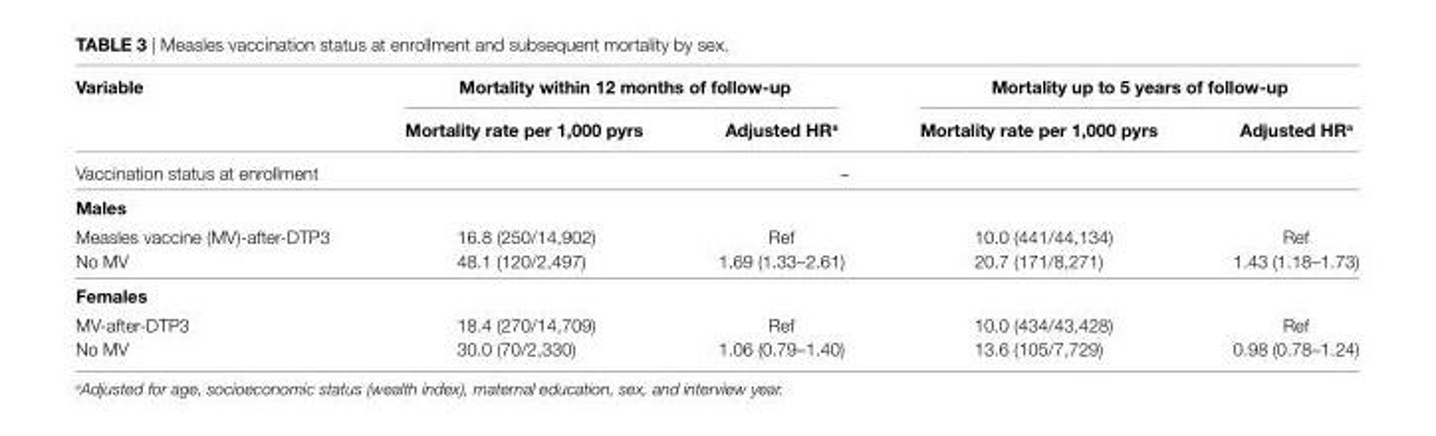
<table><thead><tr><td rowspan="2">Variable</td><td colspan="2">Mortality within 12 months of follow-up</td><td colspan="2">Mortality up to 5 years of follow-up</td></tr><tr><td>Mortality rate per 1,000 pyrs</td><td>adjusted hr<sup>a</sup></td><td>Mortality rate per 1,000 pyrs</td><td>adjusted hr<sup>a</sup></td></tr></thead><tbody><tr><td>Vaccination status at enrollment</td><td colspan="4">–</td></tr><tr><td colspan="5">Males</td></tr><tr><td>Measles vaccine (MV)-after-DTP3</td><td>16.8 (250/14,902)</td><td>Ref</td><td>10.0 (441/44,134)</td><td>Ref</td></tr><tr><td>No MV</td><td>48.1 (120/2,497)</td><td>1.69 (1.33–2.61)</td><td>20.7 (171/8,271)</td><td>1.43 (1.18–1.73)</td></tr><tr><td colspan="5">Females</td></tr><tr><td>MV-after-DTP3</td><td>18.4 (270/14,709)</td><td>Ref</td><td>10.0 (434/43,428)</td><td>Ref</td></tr><tr><td>No MV</td><td>30.0 (70/2,330)</td><td>1.06 (0.79–1.40)</td><td>13.6 (105/7,729)</td><td>0.98 (0.78–1.24)</td></tr></tbody></table>